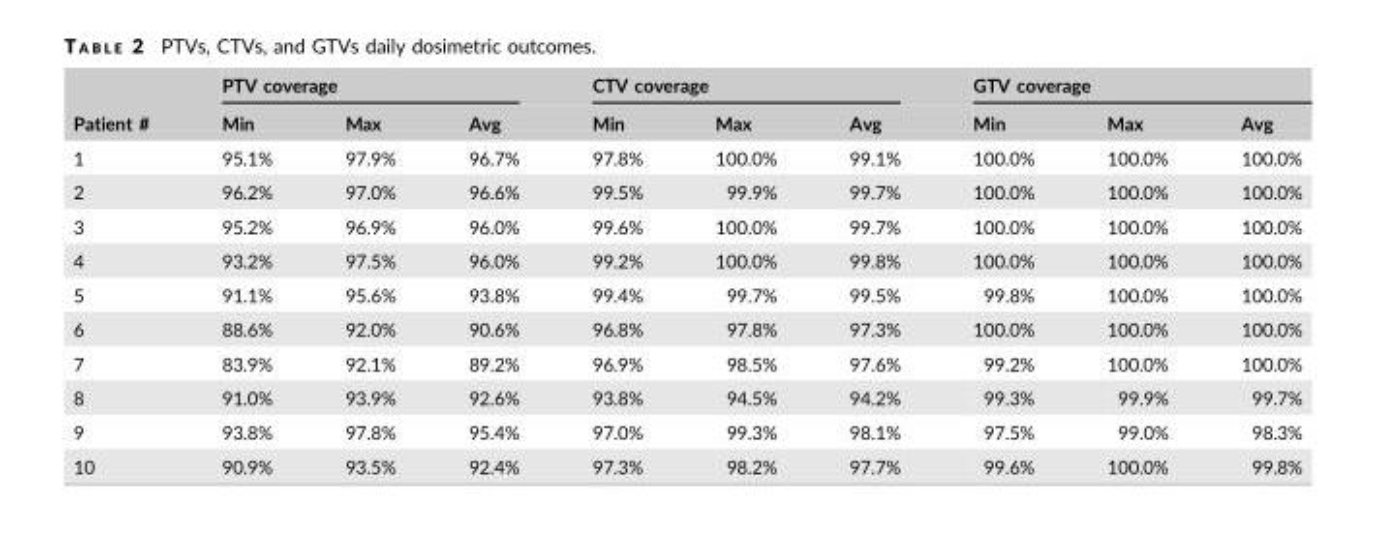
<table><thead><tr><td rowspan="2">Patient #</td><td colspan="3">PTV coverage</td><td colspan="3">CTV coverage</td><td colspan="3">GTV coverage</td></tr><tr><td>Min</td><td>Max</td><td>Avg</td><td>Min</td><td>Max</td><td>Avg</td><td>Min</td><td>Max</td><td>Avg</td></tr></thead><tbody><tr><td>1</td><td>95.1%</td><td>97.9%</td><td>96.7%</td><td>97.8%</td><td>100.0%</td><td>99.1%</td><td>100.0%</td><td>100.0%</td><td>100.0%</td></tr><tr><td>2</td><td>96.2%</td><td>97.0%</td><td>96.6%</td><td>99.5%</td><td>99.9%</td><td>99.7%</td><td>100.0%</td><td>100.0%</td><td>100.0%</td></tr><tr><td>3</td><td>95.2%</td><td>96.9%</td><td>96.0%</td><td>99.6%</td><td>100.0%</td><td>99.7%</td><td>100.0%</td><td>100.0%</td><td>100.0%</td></tr><tr><td>4</td><td>93.2%</td><td>97.5%</td><td>96.0%</td><td>99.2%</td><td>100.0%</td><td>99.8%</td><td>100.0%</td><td>100.0%</td><td>100.0%</td></tr><tr><td>5</td><td>91.1%</td><td>95.6%</td><td>93.8%</td><td>99.4%</td><td>99.7%</td><td>99.5%</td><td>99.8%</td><td>100.0%</td><td>100.0%</td></tr><tr><td>6</td><td>88.6%</td><td>92.0%</td><td>90.6%</td><td>96.8%</td><td>97.8%</td><td>97.3%</td><td>100.0%</td><td>100.0%</td><td>100.0%</td></tr><tr><td>7</td><td>83.9%</td><td>92.1%</td><td>89.2%</td><td>96.9%</td><td>98.5%</td><td>97.6%</td><td>99.2%</td><td>100.0%</td><td>100.0%</td></tr><tr><td>8</td><td>91.0%</td><td>93.9%</td><td>92.6%</td><td>93.8%</td><td>94.5%</td><td>94.2%</td><td>99.3%</td><td>99.9%</td><td>99.7%</td></tr><tr><td>9</td><td>93.8%</td><td>97.8%</td><td>95.4%</td><td>97.0%</td><td>99.3%</td><td>98.1%</td><td>97.5%</td><td>99.0%</td><td>98.3%</td></tr><tr><td>10</td><td>90.9%</td><td>93.5%</td><td>92.4%</td><td>97.3%</td><td>98.2%</td><td>97.7%</td><td>99.6%</td><td>100.0%</td><td>99.8%</td></tr></tbody></table>